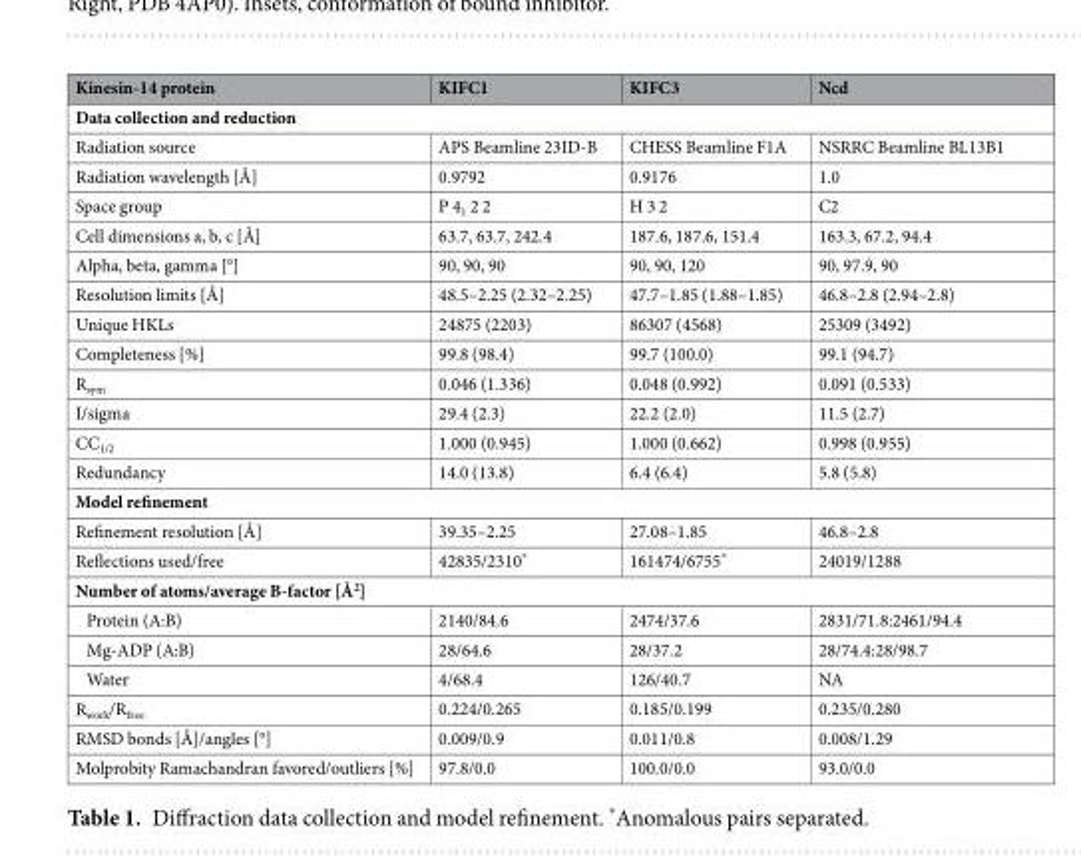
<table><thead><tr><td>Kinesin-14 protein</td><td>KIFC1</td><td>KIFC3</td><td>Ncd</td></tr></thead><tbody><tr><td colspan="4">Data collection and reduction</td></tr><tr><td>Radiation source</td><td>APS Beamline 23ID-B</td><td>CHESS Beamline F1A</td><td>NSRRC Beamline BL13B1</td></tr><tr><td>Radiation wavelength [Å]</td><td>0.9792</td><td>0.9176</td><td>1.0</td></tr><tr><td>Space group</td><td>P 4<sub>1</sub> 2 2</td><td>H 3 2</td><td>C2</td></tr><tr><td>Cell dimensions a, b, c [Å]</td><td>63.7, 63.7, 242.4</td><td>187.6, 187.6, 151.4</td><td>163.3, 67.2, 94.4</td></tr><tr><td>Alpha, beta, gamma [°]</td><td>90, 90, 90</td><td>90, 90, 120</td><td>90, 97.9, 90</td></tr><tr><td>Resolution limits [Å]</td><td>48.5–2.25 (2.32–2.25)</td><td>47.7–1.85 (1.88–1.85)</td><td>46.8–2.8 (2.94–2.8)</td></tr><tr><td>Unique HKLs</td><td>24875 (2203)</td><td>86307 (4568)</td><td>25309 (3492)</td></tr><tr><td>Completeness [%]</td><td>99.8 (98.4)</td><td>99.7 (100.0)</td><td>99.1 (94.7)</td></tr><tr><td>R<sub>sym</sub></td><td>0.046 (1.336)</td><td>0.048 (0.992)</td><td>0.091 (0.533)</td></tr><tr><td>I/sigma</td><td>29.4 (2.3)</td><td>22.2 (2.0)</td><td>11.5 (2.7)</td></tr><tr><td>CC<sub>1/2</sub></td><td>1.000 (0.945)</td><td>1.000 (0.662)</td><td>0.998 (0.955)</td></tr><tr><td>Redundancy</td><td>14.0 (13.8)</td><td>6.4 (6.4)</td><td>5.8 (5.8)</td></tr><tr><td colspan="4">Model refinement</td></tr><tr><td>Refinement resolution [Å]</td><td>39.35–2.25</td><td>27.08–1.85</td><td>46.8–2.8</td></tr><tr><td>Reflections used/free</td><td>42835/2310*</td><td>161474/6755*</td><td>24019/1288</td></tr><tr><td colspan="4">Number of atoms/average B-factor [Å<sup>2</sup>]</td></tr><tr><td>Protein (A:B)</td><td>2140/84.6</td><td>2474/37.6</td><td>2831/71.8:2461/94.4</td></tr><tr><td>Mg-ADP (A:B)</td><td>28/64.6</td><td>28/37.2</td><td>28/74.4:28/98.7</td></tr><tr><td>Water</td><td>4/68.4</td><td>126/40.7</td><td>NA</td></tr><tr><td>R<sub>work</sub>/R<sub>free</sub></td><td>0.224/0.265</td><td>0.185/0.199</td><td>0.235/0.280</td></tr><tr><td>RMSD bonds [Å]/angles [°]</td><td>0.009/0.9</td><td>0.011/0.8</td><td>0.008/1.29</td></tr><tr><td>Molprobity Ramachandran favored/outliers [%]</td><td>97.8/0.0</td><td>100.0/0.0</td><td>93.0/0.0</td></tr></tbody></table>